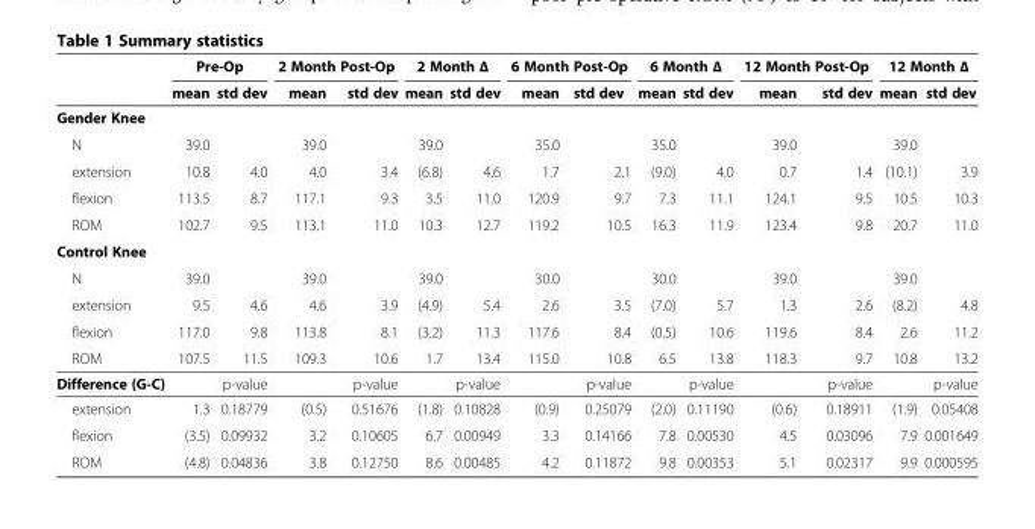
<table><thead><tr><td rowspan="2"></td><td colspan="2">Pre-Op</td><td colspan="2">2 Month Post-Op</td><td colspan="2">2 Month Δ</td><td colspan="2">6 Month Post-Op</td><td colspan="2">6 Month Δ</td><td colspan="2">12 Month Post-Op</td><td colspan="2">12 Month Δ</td></tr><tr><td>mean</td><td>std dev</td><td>mean</td><td>std dev</td><td>mean</td><td>std dev</td><td>mean</td><td>std dev</td><td>mean</td><td>std dev</td><td>mean</td><td>std dev</td><td>mean</td><td>std dev</td></tr></thead><tbody><tr><td colspan="15">Gender Knee</td></tr><tr><td>N</td><td>39.0</td><td></td><td>39.0</td><td></td><td>39.0</td><td></td><td>35.0</td><td></td><td>35.0</td><td></td><td>39.0</td><td></td><td>39.0</td><td></td></tr><tr><td>extension</td><td>10.8</td><td>4.0</td><td>4.0</td><td>3.4</td><td>(6.8)</td><td>4.6</td><td>1.7</td><td>2.1</td><td>(9.0)</td><td>4.0</td><td>0.7</td><td>1.4</td><td>(10.1)</td><td>3.9</td></tr><tr><td>flexion</td><td>113.5</td><td>8.7</td><td>117.1</td><td>9.3</td><td>3.5</td><td>11.0</td><td>120.9</td><td>9.7</td><td>7.3</td><td>11.1</td><td>124.1</td><td>9.5</td><td>10.5</td><td>10.3</td></tr><tr><td>ROM</td><td>102.7</td><td>9.5</td><td>113.1</td><td>11.0</td><td>10.3</td><td>12.7</td><td>119.2</td><td>10.5</td><td>16.3</td><td>11.9</td><td>123.4</td><td>9.8</td><td>20.7</td><td>11.0</td></tr><tr><td colspan="15">Control Knee</td></tr><tr><td>N</td><td>39.0</td><td></td><td>39.0</td><td></td><td>39.0</td><td></td><td>30.0</td><td></td><td>30.0</td><td></td><td>39.0</td><td></td><td>39.0</td><td></td></tr><tr><td>extension</td><td>9.5</td><td>4.6</td><td>4.6</td><td>3.9</td><td>(4.9)</td><td>5.4</td><td>2.6</td><td>3.5</td><td>(7.0)</td><td>5.7</td><td>1.3</td><td>2.6</td><td>(8.2)</td><td>4.8</td></tr><tr><td>flexion</td><td>117.0</td><td>9.8</td><td>113.8</td><td>8.1</td><td>(3.2)</td><td>11.3</td><td>117.6</td><td>8.4</td><td>(0.5)</td><td>10.6</td><td>119.6</td><td>8.4</td><td>2.6</td><td>11.2</td></tr><tr><td>ROM</td><td>107.5</td><td>11.5</td><td>109.3</td><td>10.6</td><td>1.7</td><td>13.4</td><td>115.0</td><td>10.8</td><td>6.5</td><td>13.8</td><td>118.3</td><td>9.7</td><td>10.8</td><td>13.2</td></tr><tr><td>Difference (G-C)</td><td></td><td>p-value</td><td></td><td>p-value</td><td></td><td>p-value</td><td></td><td>p-value</td><td></td><td>p-value</td><td></td><td>p-value</td><td></td><td>p-value</td></tr><tr><td>extension</td><td>1.3</td><td>0.18779</td><td>(0.5)</td><td>0.51676</td><td>(1.8)</td><td>0.10828</td><td>(0.9)</td><td>0.25079</td><td>(2.0)</td><td>0.11190</td><td>(0.6)</td><td>0.18911</td><td>(1.9)</td><td>0.05408</td></tr><tr><td>flexion</td><td>(3.5)</td><td>0.09932</td><td>3.2</td><td>0.10605</td><td>6.7</td><td>0.00949</td><td>3.3</td><td>0.14166</td><td>7.8</td><td>0.00530</td><td>4.5</td><td>0.03096</td><td>7.9</td><td>0.001649</td></tr><tr><td>ROM</td><td>(4.8)</td><td>0.04836</td><td>3.8</td><td>0.12750</td><td>8.6</td><td>0.00485</td><td>4.2</td><td>0.11872</td><td>9.8</td><td>0.00353</td><td>5.1</td><td>0.02317</td><td>9.9</td><td>0.000595</td></tr></tbody></table>